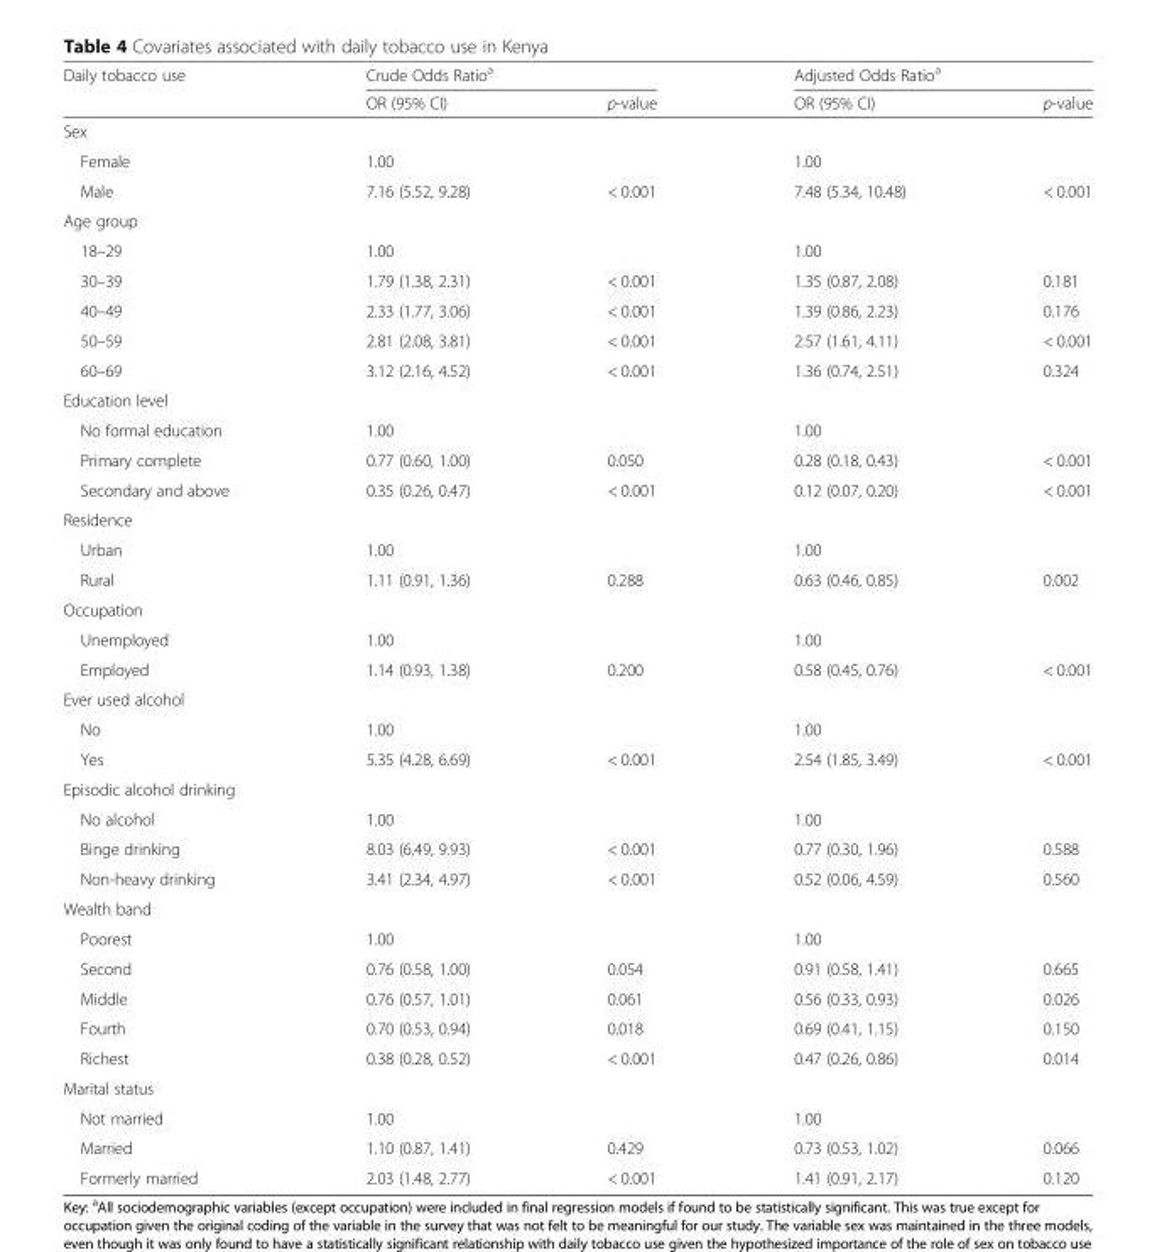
<table><thead><tr><td rowspan="2">Daily tobacco use</td><td colspan="2">Crude Odds Ratio<sup>a</sup></td><td colspan="2">Adjusted Odds Ratio<sup>a</sup></td></tr><tr><td>OR (95% CI)</td><td>p-value</td><td>OR (95% CI)</td><td>p-value</td></tr></thead><tbody><tr><td colspan="5">Sex</td></tr><tr><td>Female</td><td>1.00</td><td></td><td>1.00</td><td></td></tr><tr><td>Male</td><td>7.16 (5.52, 9.28)</td><td>&lt; 0.001</td><td>7.48 (5.34, 10.48)</td><td>&lt; 0.001</td></tr><tr><td colspan="5">Age group</td></tr><tr><td>18–29</td><td>1.00</td><td></td><td>1.00</td><td></td></tr><tr><td>30–39</td><td>1.79 (1.38, 2.31)</td><td>&lt; 0.001</td><td>1.35 (0.87, 2.08)</td><td>0.181</td></tr><tr><td>40–49</td><td>2.33 (1.77, 3.06)</td><td>&lt; 0.001</td><td>1.39 (0.86, 2.23)</td><td>0.176</td></tr><tr><td>50–59</td><td>2.81 (2.08, 3.81)</td><td>&lt; 0.001</td><td>2.57 (1.61, 4.11)</td><td>&lt; 0.001</td></tr><tr><td>60–69</td><td>3.12 (2.16, 4.52)</td><td>&lt; 0.001</td><td>1.36 (0.74, 2.51)</td><td>0.324</td></tr><tr><td colspan="5">Education level</td></tr><tr><td>No formal education</td><td>1.00</td><td></td><td>1.00</td><td></td></tr><tr><td>Primary complete</td><td>0.77 (0.60, 1.00)</td><td>0.050</td><td>0.28 (0.18, 0.43)</td><td>&lt; 0.001</td></tr><tr><td>Secondary and above</td><td>0.35 (0.26, 0.47)</td><td>&lt; 0.001</td><td>0.12 (0.07, 0.20)</td><td>&lt; 0.001</td></tr><tr><td colspan="5">Residence</td></tr><tr><td>Urban</td><td>1.00</td><td></td><td>1.00</td><td></td></tr><tr><td>Rural</td><td>1.11 (0.91, 1.36)</td><td>0.288</td><td>0.63 (0.46, 0.85)</td><td>0.002</td></tr><tr><td colspan="5">Occupation</td></tr><tr><td>Unemployed</td><td>1.00</td><td></td><td>1.00</td><td></td></tr><tr><td>Employed</td><td>1.14 (0.93, 1.38)</td><td>0.200</td><td>0.58 (0.45, 0.76)</td><td>&lt; 0.001</td></tr><tr><td colspan="5">Ever used alcohol</td></tr><tr><td>No</td><td>1.00</td><td></td><td>1.00</td><td></td></tr><tr><td>Yes</td><td>5.35 (4.28, 6.69)</td><td>&lt; 0.001</td><td>2.54 (1.85, 3.49)</td><td>&lt; 0.001</td></tr><tr><td colspan="5">Episodic alcohol drinking</td></tr><tr><td>No alcohol</td><td>1.00</td><td></td><td>1.00</td><td></td></tr><tr><td>Binge drinking</td><td>8.03 (6.49, 9.93)</td><td>&lt; 0.001</td><td>0.77 (0.30, 1.96)</td><td>0.588</td></tr><tr><td>Non-heavy drinking</td><td>3.41 (2.34, 4.97)</td><td>&lt; 0.001</td><td>0.52 (0.06, 4.59)</td><td>0.560</td></tr><tr><td colspan="5">Wealth band</td></tr><tr><td>Poorest</td><td>1.00</td><td></td><td>1.00</td><td></td></tr><tr><td>Second</td><td>0.76 (0.58, 1.00)</td><td>0.054</td><td>0.91 (0.58, 1.41)</td><td>0.665</td></tr><tr><td>Middle</td><td>0.76 (0.57, 1.01)</td><td>0.061</td><td>0.56 (0.33, 0.93)</td><td>0.026</td></tr><tr><td>Fourth</td><td>0.70 (0.53, 0.94)</td><td>0.018</td><td>0.69 (0.41, 1.15)</td><td>0.150</td></tr><tr><td>Richest</td><td>0.38 (0.28, 0.52)</td><td>&lt; 0.001</td><td>0.47 (0.26, 0.86)</td><td>0.014</td></tr><tr><td colspan="5">Marital status</td></tr><tr><td>Not married</td><td>1.00</td><td></td><td>1.00</td><td></td></tr><tr><td>Married</td><td>1.10 (0.87, 1.41)</td><td>0.429</td><td>0.73 (0.53, 1.02)</td><td>0.066</td></tr><tr><td>Formerly married</td><td>2.03 (1.48, 2.77)</td><td>&lt; 0.001</td><td>1.41 (0.91, 2.17)</td><td>0.120</td></tr></tbody></table>